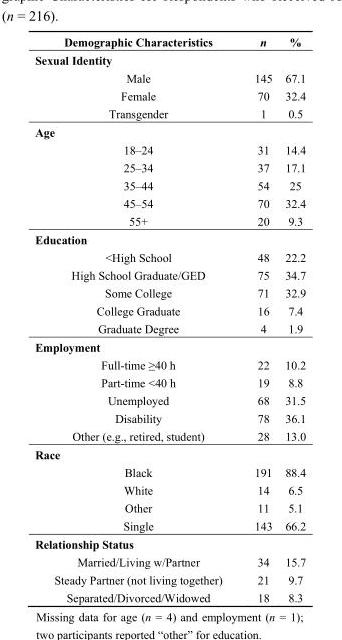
<table><thead><tr><td>Demographic Characteristics</td><td>n</td><td>%</td></tr></thead><tbody><tr><td colspan="3">Sexual Identity</td></tr><tr><td>Male</td><td>145</td><td>67.1</td></tr><tr><td>Female</td><td>70</td><td>32.4</td></tr><tr><td>Transgender</td><td>1</td><td>0.5</td></tr><tr><td colspan="3">Age</td></tr><tr><td>18–24</td><td>31</td><td>14.4</td></tr><tr><td>25–34</td><td>37</td><td>17.1</td></tr><tr><td>35–44</td><td>54</td><td>25</td></tr><tr><td>45–54</td><td>70</td><td>32.4</td></tr><tr><td>55+</td><td>20</td><td>9.3</td></tr><tr><td colspan="3">Education</td></tr><tr><td>&lt;High School</td><td>48</td><td>22.2</td></tr><tr><td>High School Graduate/GED</td><td>75</td><td>34.7</td></tr><tr><td>Some College</td><td>71</td><td>32.9</td></tr><tr><td>College Graduate</td><td>16</td><td>7.4</td></tr><tr><td>Graduate Degree</td><td>4</td><td>1.9</td></tr><tr><td colspan="3">Employment</td></tr><tr><td>Full-time ≥40 h</td><td>22</td><td>10.2</td></tr><tr><td>Part-time &lt;40 h</td><td>19</td><td>8.8</td></tr><tr><td>Unemployed</td><td>68</td><td>31.5</td></tr><tr><td>Disability</td><td>78</td><td>36.1</td></tr><tr><td>Other (e.g., retired, student)</td><td>28</td><td>13.0</td></tr><tr><td colspan="3">Race</td></tr><tr><td>Black</td><td>191</td><td>88.4</td></tr><tr><td>White</td><td>14</td><td>6.5</td></tr><tr><td>Other</td><td>11</td><td>5.1</td></tr><tr><td>Single</td><td>143</td><td>66.2</td></tr><tr><td colspan="3">Relationship Status</td></tr><tr><td>Married/Living w/Partner</td><td>34</td><td>15.7</td></tr><tr><td>Steady Partner (not living together)</td><td>21</td><td>9.7</td></tr><tr><td>Separated/Divorced/Widowed</td><td>18</td><td>8.3</td></tr></tbody></table>